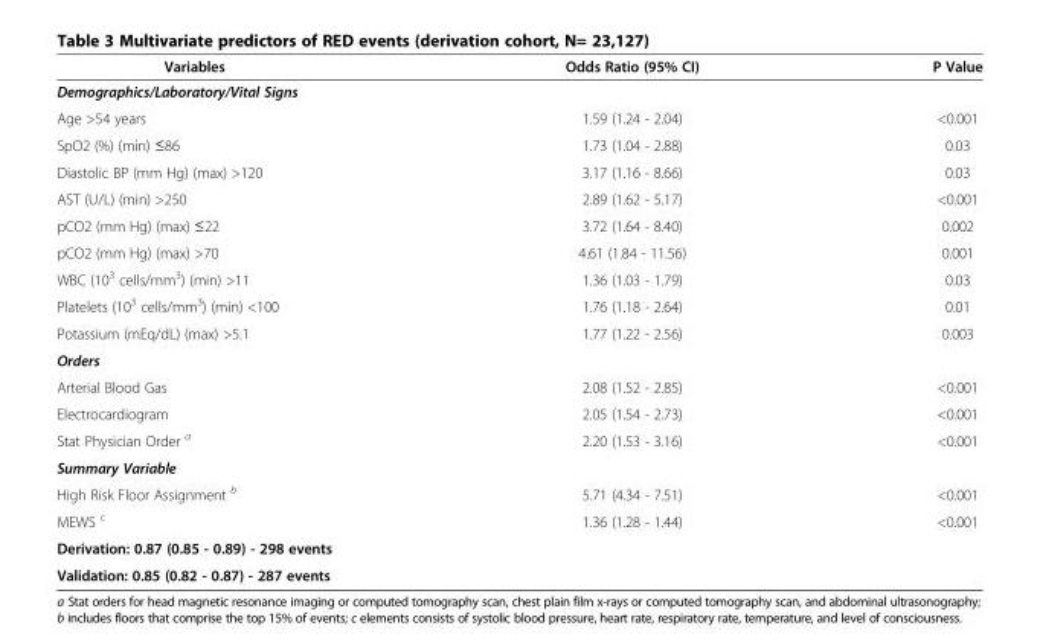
<table><thead><tr><td>Variables</td><td>Odds Ratio (95% CI)</td><td>P Value</td></tr></thead><tbody><tr><td colspan="3">Demographics/Laboratory/Vital Signs</td></tr><tr><td>Age &gt;54 years</td><td>1.59 (1.24 - 2.04)</td><td>&lt;0.001</td></tr><tr><td>SpO2 (%) (min) ≤86</td><td>1.73 (1.04 - 2.88)</td><td>0.03</td></tr><tr><td>Diastolic BP (mm Hg) (max) &gt;120</td><td>3.17 (1.16 - 8.66)</td><td>0.03</td></tr><tr><td>AST (U/L) (min) &gt;250</td><td>2.89 (1.62 - 5.17)</td><td>&lt;0.001</td></tr><tr><td>pCO2 (mm Hg) (max) ≤22</td><td>3.72 (1.64 - 8.40)</td><td>0.002</td></tr><tr><td>pCO2 (mm Hg) (max) &gt;70</td><td>4.61 (1.84 - 11.56)</td><td>0.001</td></tr><tr><td>WBC (10<sup>3</sup> cells/mm<sup>3</sup>) (min) &gt;11</td><td>1.36 (1.03 - 1.79)</td><td>0.03</td></tr><tr><td>Platelets (10<sup>3</sup> cells/mm<sup>3</sup>) (min) &lt;100</td><td>1.76 (1.18 - 2.64)</td><td>0.01</td></tr><tr><td>Potassium (mEq/dL) (max) &gt;5.1</td><td>1.77 (1.22 - 2.56)</td><td>0.003</td></tr><tr><td colspan="3">Orders</td></tr><tr><td>Arterial Blood Gas</td><td>2.08 (1.52 - 2.85)</td><td>&lt;0.001</td></tr><tr><td>Electrocardiogram</td><td>2.05 (1.54 - 2.73)</td><td>&lt;0.001</td></tr><tr><td>Stat Physician Order <sup>a</sup></td><td>2.20 (1.53 - 3.16)</td><td>&lt;0.001</td></tr><tr><td colspan="3">Summary Variable</td></tr><tr><td>High Risk Floor Assignment <sup>b</sup></td><td>5.71 (4.34 - 7.51)</td><td>&lt;0.001</td></tr><tr><td>MEWS <sup>c</sup></td><td>1.36 (1.28 - 1.44)</td><td>&lt;0.001</td></tr><tr><td colspan="3">Derivation: 0.87 (0.85 - 0.89) - 298 events</td></tr><tr><td>Validation: 0.85 (0.82 - 0.87) - 287 events</td><td></td><td></td></tr></tbody></table>